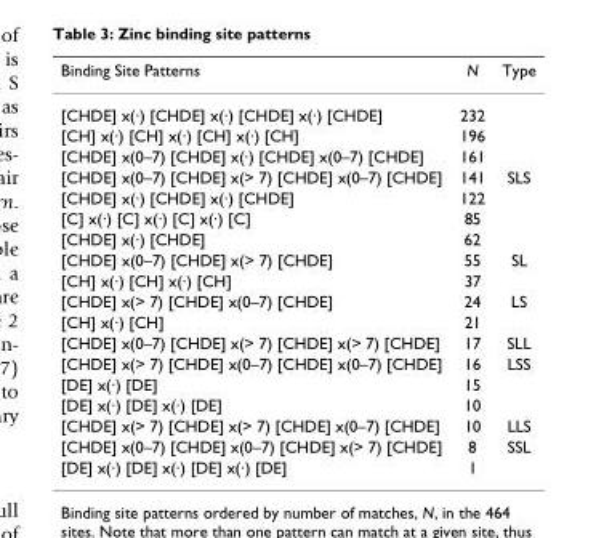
<table><thead><tr><td>Binding Site Patterns</td><td>N</td><td>Type</td></tr></thead><tbody><tr><td>[CHDE] x(·) [CHDE] x(·) [CHDE] x(·) [CHDE]</td><td>232</td><td></td></tr><tr><td>[CH] x(·) [CH] x(·) [CH] x(·) [CH]</td><td>196</td><td></td></tr><tr><td>[CHDE] x(0–7) [CHDE] x(·) [CHDE] x(0–7) [CHDE]</td><td>161</td><td></td></tr><tr><td>[CHDE] x(0–7) [CHDE] x(&gt; 7) [CHDE] x(0–7) [CHDE]</td><td>141</td><td>SLS</td></tr><tr><td>[CHDE] x(·) [CHDE] x(·) [CHDE]</td><td>122</td><td></td></tr><tr><td>[C] x(·) [C] x(·) [C] x(·) [C]</td><td>85</td><td></td></tr><tr><td>[CHDE] x(·) [CHDE]</td><td>62</td><td></td></tr><tr><td>[CHDE] x(0–7) [CHDE] x(&gt; 7) [CHDE]</td><td>55</td><td>SL</td></tr><tr><td>[CH] x(·) [CH] x(·) [CH]</td><td>37</td><td></td></tr><tr><td>[CHDE] x(&gt; 7) [CHDE] x(0–7) [CHDE]</td><td>24</td><td>LS</td></tr><tr><td>[CH] x(·) [CH]</td><td>21</td><td></td></tr><tr><td>[CHDE] x(0–7) [CHDE] x(&gt; 7) [CHDE] x(&gt; 7) [CHDE]</td><td>17</td><td>SLL</td></tr><tr><td>[CHDE] x(&gt; 7) [CHDE] x(0–7) [CHDE] x(0–7) [CHDE]</td><td>16</td><td>LSS</td></tr><tr><td>[DE] x(·) [DE]</td><td>15</td><td></td></tr><tr><td>[DE] x(·) [DE] x(·) [DE]</td><td>10</td><td></td></tr><tr><td>[CHDE] x(&gt; 7) [CHDE] x(&gt; 7) [CHDE] x(0–7) [CHDE]</td><td>10</td><td>LLS</td></tr><tr><td>[CHDE] x(0–7) [CHDE] x(0–7) [CHDE] x(&gt; 7) [CHDE]</td><td>8</td><td>SSL</td></tr><tr><td>[DE] x(·) [DE] x(·) [DE] x(·) [DE]</td><td>1</td><td></td></tr></tbody></table>